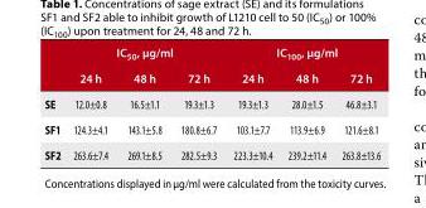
<table><thead><tr><td rowspan="2"></td><td colspan="3">IC<sub>50</sub>, μg/ml</td><td colspan="3">IC<sub>100</sub>, μg/ml</td></tr><tr><td>24 h</td><td>48 h</td><td>72 h</td><td>24 h</td><td>48 h</td><td>72 h</td></tr></thead><tbody><tr><td>SE</td><td>12.0±0.8</td><td>16.5±1.1</td><td>19.3±1.3</td><td>19.3±1.3</td><td>28.0±1.5</td><td>46.8±3.1</td></tr><tr><td>SF1</td><td>124.3±4.1</td><td>143.1±5.8</td><td>180.8±6.7</td><td>103.1±7.7</td><td>113.9±6.9</td><td>121.6±8.1</td></tr><tr><td>SF2</td><td>263.6±7.4</td><td>269.1±8.5</td><td>282.5±9.3</td><td>223.3±10.4</td><td>239.2±11.4</td><td>263.8±13.6</td></tr></tbody></table>